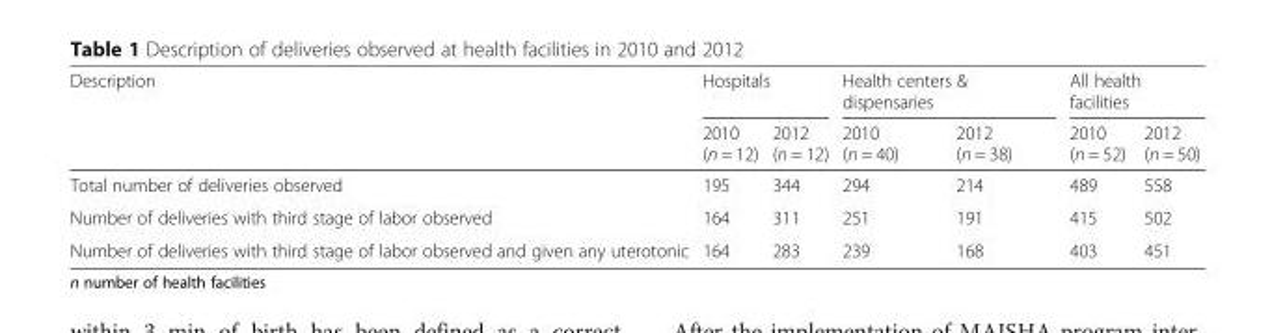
<table><thead><tr><td rowspan="2">Description</td><td colspan="2">Hospitals</td><td colspan="2">Health centers &amp; dispensaries</td><td colspan="2">All health facilities</td></tr><tr><td>2010 (n = 12)</td><td>2012 (n = 12)</td><td>2010 (n = 40)</td><td>2012 (n = 38)</td><td>2010 (n = 52)</td><td>2012 (n = 50)</td></tr></thead><tbody><tr><td>Total number of deliveries observed</td><td>195</td><td>344</td><td>294</td><td>214</td><td>489</td><td>558</td></tr><tr><td>Number of deliveries with third stage of labor observed</td><td>164</td><td>311</td><td>251</td><td>191</td><td>415</td><td>502</td></tr><tr><td>Number of deliveries with third stage of labor observed and given any uterotonic</td><td>164</td><td>283</td><td>239</td><td>168</td><td>403</td><td>451</td></tr></tbody></table>